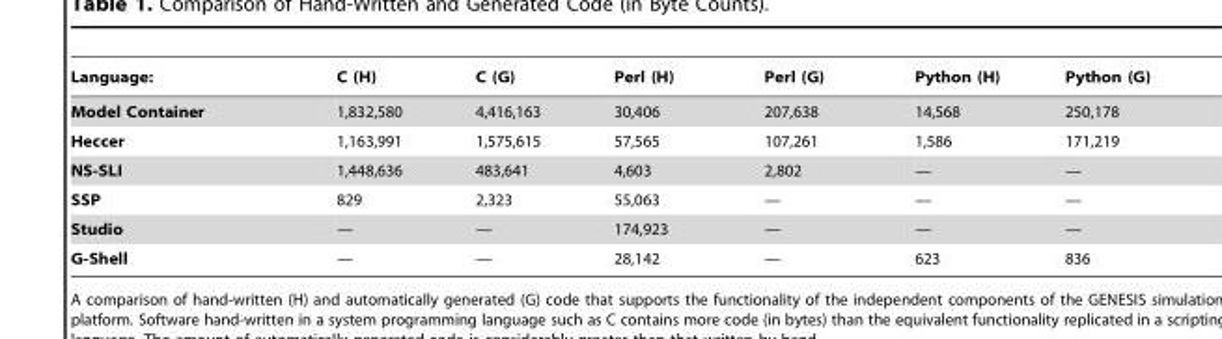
<table><thead><tr><td>Language:</td><td>C (H)</td><td>C (G)</td><td>Perl (H)</td><td>Perl (G)</td><td>Python (H)</td><td>Python (G)</td></tr></thead><tbody><tr><td>Model Container</td><td>1,832,580</td><td>4,416,163</td><td>30,406</td><td>207,638</td><td>14,568</td><td>250,178</td></tr><tr><td>Heccer</td><td>1,163,991</td><td>1,575,615</td><td>57,565</td><td>107,261</td><td>1,586</td><td>171,219</td></tr><tr><td>NS-SLI</td><td>1,448,636</td><td>483,641</td><td>4,603</td><td>2,802</td><td>—</td><td>—</td></tr><tr><td>SSP</td><td>829</td><td>2,323</td><td>55,063</td><td>—</td><td>—</td><td>—</td></tr><tr><td>Studio</td><td>—</td><td>—</td><td>174,923</td><td>—</td><td>—</td><td>—</td></tr><tr><td>G-Shell</td><td>—</td><td>—</td><td>28,142</td><td>—</td><td>623</td><td>836</td></tr></tbody></table>